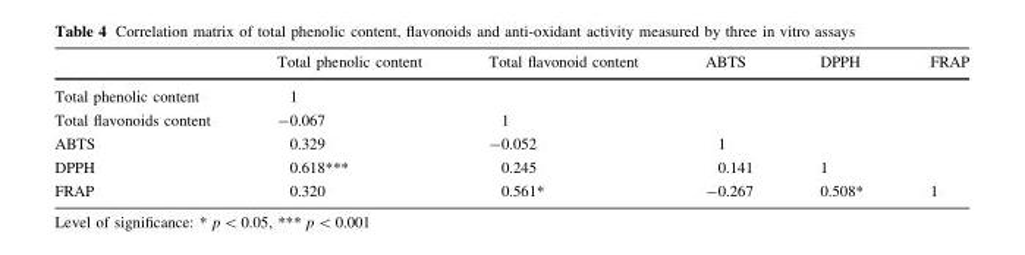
<table><thead><tr><td></td><td>Total phenolic content</td><td>Total flavonoid content</td><td>ABTS</td><td>DPPH</td><td>FRAP</td></tr></thead><tbody><tr><td>Total phenolic content</td><td>1</td><td></td><td></td><td></td><td></td></tr><tr><td>Total flavonoids content</td><td>-0.067</td><td>1</td><td></td><td></td><td></td></tr><tr><td>ABTS</td><td>0.329</td><td>-0.052</td><td>1</td><td></td><td></td></tr><tr><td>DPPH</td><td>0.618***</td><td>0.245</td><td>0.141</td><td>1</td><td></td></tr><tr><td>FRAP</td><td>0.320</td><td>0.561*</td><td>-0.267</td><td>0.508*</td><td>1</td></tr></tbody></table>